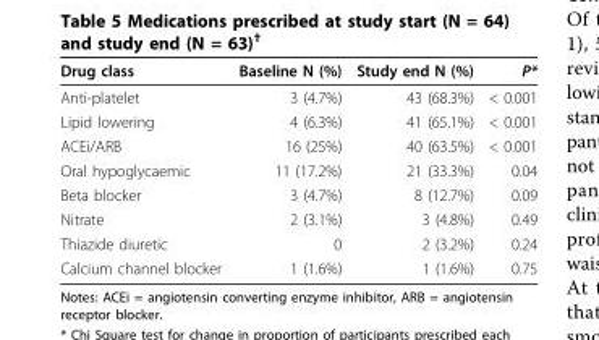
<table><thead><tr><td>Drug class</td><td>Baseline N (%)</td><td>Study end N (%)</td><td>P*</td></tr></thead><tbody><tr><td>Anti-platelet</td><td>3 (4.7%)</td><td>43 (68.3%)</td><td>&lt; 0.001</td></tr><tr><td>Lipid lowering</td><td>4 (6.3%)</td><td>41 (65.1%)</td><td>&lt; 0.001</td></tr><tr><td>ACEi/ARB</td><td>16 (25%)</td><td>40 (63.5%)</td><td>&lt; 0.001</td></tr><tr><td>Oral hypoglycaemic</td><td>11 (17.2%)</td><td>21 (33.3%)</td><td>0.04</td></tr><tr><td>Beta blocker</td><td>3 (4.7%)</td><td>8 (12.7%)</td><td>0.09</td></tr><tr><td>Nitrate</td><td>2 (3.1%)</td><td>3 (4.8%)</td><td>0.49</td></tr><tr><td>Thiazide diuretic</td><td>0</td><td>2 (3.2%)</td><td>0.24</td></tr><tr><td>Calcium channel blocker</td><td>1 (1.6%)</td><td>1 (1.6%)</td><td>0.75</td></tr></tbody></table>